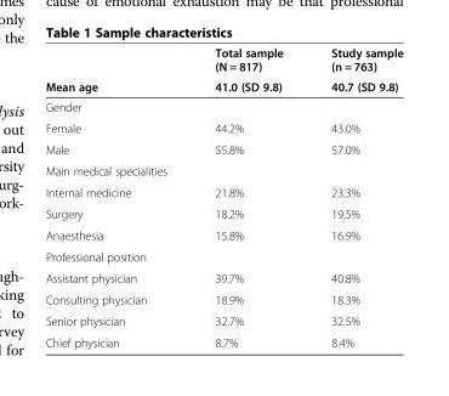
<table><thead><tr><td rowspan="2">Mean age</td><td rowspan="2">Total sample (N = 817) 41.0 (SD 9.8)</td><td rowspan="2">Study sample (n = 763) 40.7 (SD 9.8)</td></tr><tr></tr></thead><tbody><tr><td colspan="3">Gender</td></tr><tr><td>Female</td><td>44.2%</td><td>43.0%</td></tr><tr><td>Male</td><td>55.8%</td><td>57.0%</td></tr><tr><td colspan="3">Main medical specialities</td></tr><tr><td>Internal medicine</td><td>21.8%</td><td>23.3%</td></tr><tr><td>Surgery</td><td>18.2%</td><td>19.5%</td></tr><tr><td>Anaesthesia</td><td>15.8%</td><td>16.9%</td></tr><tr><td colspan="3">Professional position</td></tr><tr><td>Assistant physician</td><td>39.7%</td><td>40.8%</td></tr><tr><td>Consulting physician</td><td>18.9%</td><td>18.3%</td></tr><tr><td>Senior physician</td><td>32.7%</td><td>32.5%</td></tr><tr><td>Chief physician</td><td>8.7%</td><td>8.4%</td></tr></tbody></table>